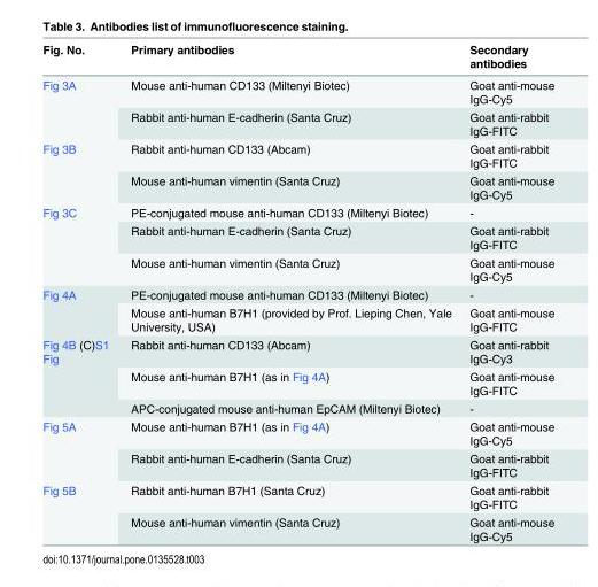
<table><thead><tr><td>Fig. No.</td><td>Primary antibodies</td><td>Secondary antibodies</td></tr></thead><tbody><tr><td rowspan="2">Fig 3A</td><td>Mouse anti-human CD133 (Miltenyi Biotec)</td><td>Goat anti-mouse IgG-Cy5</td></tr><tr><td>Rabbit anti-human E-cadherin (Santa Cruz)</td><td>Goat anti-rabbit IgG-FITC</td></tr><tr><td rowspan="2">Fig 3B</td><td>Rabbit anti-human CD133 (Abcam)</td><td>Goat anti-rabbit IgG-FITC</td></tr><tr><td>Mouse anti-human vimentin (Santa Cruz)</td><td>Goat anti-mouse IgG-Cy5</td></tr><tr><td rowspan="3">Fig 3C</td><td>PE-conjugated mouse anti-human CD133 (Miltenyi Biotec)</td><td>-</td></tr><tr><td>Rabbit anti-human E-cadherin (Santa Cruz)</td><td>Goat anti-rabbit IgG-FITC</td></tr><tr><td>Mouse anti-human vimentin (Santa Cruz)</td><td>Goat anti-mouse IgG-Cy5</td></tr><tr><td rowspan="2">Fig 4A</td><td>PE-conjugated mouse anti-human CD133 (Miltenyi Biotec)</td><td>-</td></tr><tr><td>Mouse anti-human B7H1 (provided by Prof. Lieping Chen, Yale University, USA)</td><td>Goat anti-mouse IgG-FITC</td></tr><tr><td rowspan="3">Fig 4B (C)S1 Fig</td><td>Rabbit anti-human CD133 (Abcam)</td><td>Goat anti-rabbit IgG-Cy3</td></tr><tr><td>Mouse anti-human B7H1 (as in Fig 4A)</td><td>Goat anti-mouse IgG-FITC</td></tr><tr><td>APC-conjugated mouse anti-human EpCAM (Miltenyi Biotec)</td><td>-</td></tr><tr><td rowspan="2">Fig 5A</td><td>Mouse anti-human B7H1 (as in Fig 4A)</td><td>Goat anti-mouse IgG-Cy5</td></tr><tr><td>Rabbit anti-human E-cadherin (Santa Cruz)</td><td>Goat anti-rabbit IgG-FITC</td></tr><tr><td rowspan="2">Fig 5B</td><td>Rabbit anti-human B7H1 (Santa Cruz)</td><td>Goat anti-rabbit IgG-FITC</td></tr><tr><td>Mouse anti-human vimentin (Santa Cruz)</td><td>Goat anti-mouse IgG-Cy5</td></tr></tbody></table>